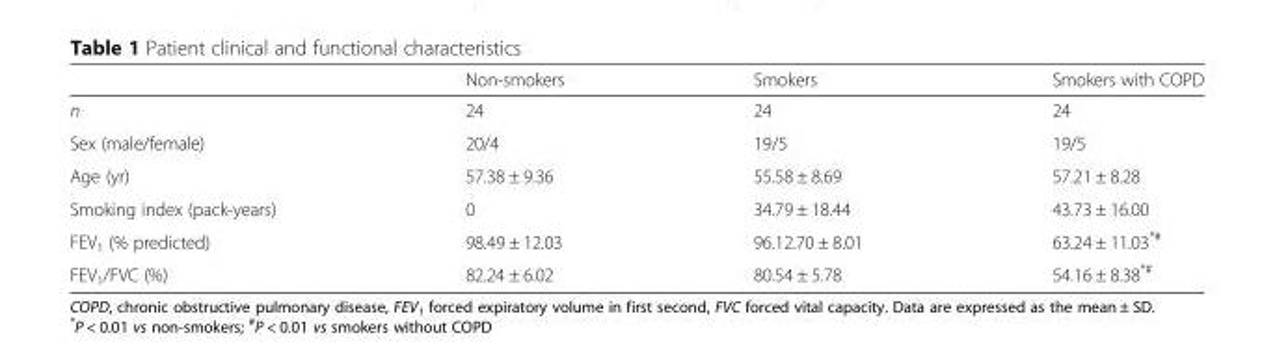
<table><thead><tr><td></td><td>Non-smokers</td><td>Smokers</td><td>Smokers with COPD</td></tr></thead><tbody><tr><td>n</td><td>24</td><td>24</td><td>24</td></tr><tr><td>Sex (male/female)</td><td>20/4</td><td>19/5</td><td>19/5</td></tr><tr><td>Age (yr)</td><td>57.38 ± 9.36</td><td>55.58 ± 8.69</td><td>57.21 ± 8.28</td></tr><tr><td>Smoking index (pack-years)</td><td>0</td><td>34.79 ± 18.44</td><td>43.73 ± 16.00</td></tr><tr><td>FEV<sub>1</sub> (% predicted)</td><td>98.49 ± 12.03</td><td>96.12.70 ± 8.01</td><td>63.24 ± 11.03<sup>*#</sup></td></tr><tr><td>FEV<sub>1</sub>/FVC (%)</td><td>82.24 ± 6.02</td><td>80.54 ± 5.78</td><td>54.16 ± 8.38<sup>*#</sup></td></tr></tbody></table>